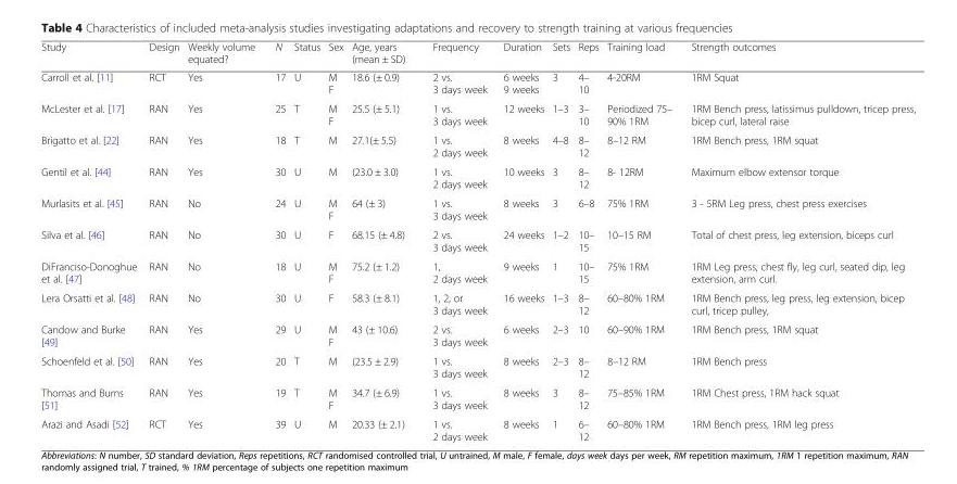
<table><thead><tr><td>Study</td><td>Design</td><td>Weekly volume equated?</td><td>N</td><td>Status</td><td>Sex</td><td>Age, years (mean ± SD)</td><td>Frequency</td><td>Duration</td><td>Sets</td><td>Reps</td><td>Training load</td><td>Strength outcomes</td></tr></thead><tbody><tr><td>Carroll et al. [11]</td><td>RCT</td><td>Yes</td><td>17</td><td>U</td><td>M F</td><td>18.6 (± 0.9)</td><td>2 vs. 3 days week</td><td>6 weeks 9 weeks</td><td>3</td><td>4– 10</td><td>4-20RM</td><td>1RM Squat</td></tr><tr><td>McLester et al. [17]</td><td>RAN</td><td>Yes</td><td>25</td><td>T</td><td>M F</td><td>25.5 (± 5.1)</td><td>1 vs. 3 days week</td><td>12 weeks</td><td>1–3</td><td>3– 10</td><td>Periodized 75– 90% 1RM</td><td>1RM Bench press, latissimus pulldown, tricep press, bicep curl, lateral raise</td></tr><tr><td>Brigatto et al. [22]</td><td>RAN</td><td>Yes</td><td>18</td><td>T</td><td>M</td><td>27.1(± 5.5)</td><td>1 vs. 2 days week</td><td>8 weeks</td><td>4–8</td><td>8– 12</td><td>8–12 RM</td><td>1RM Bench press, 1RM squat</td></tr><tr><td>Gentil et al. [44]</td><td>RAN</td><td>Yes</td><td>30</td><td>U</td><td>M</td><td>(23.0 ± 3.0)</td><td>1 vs. 2 days week</td><td>10 weeks</td><td>3</td><td>8– 12</td><td>8- 12RM</td><td>Maximum elbow extensor torque</td></tr><tr><td>Murlasits et al. [45]</td><td>RAN</td><td>No</td><td>24</td><td>U</td><td>M F</td><td>64 (± 3)</td><td>1 vs. 3 days week</td><td>8 weeks</td><td>3</td><td>6–8</td><td>75% 1RM</td><td>3 - 5RM Leg press, chest press exercises</td></tr><tr><td>Silva et al. [46]</td><td>RAN</td><td>No</td><td>30</td><td>U</td><td>F</td><td>68.15 (± 4.8)</td><td>2 vs. 3 days week</td><td>24 weeks</td><td>1–2</td><td>10– 15</td><td>10–15 RM</td><td>Total of chest press, leg extension, biceps curl</td></tr><tr><td>DiFranciso-Donoghue et al. [47]</td><td>RAN</td><td>No</td><td>18</td><td>U</td><td>M F</td><td>75.2 (± 1.2)</td><td>1, 2 days week</td><td>9 weeks</td><td>1</td><td>10– 15</td><td>75% 1RM</td><td>1RM Leg press, chest fly, leg curl, seated dip, leg extension, arm curl.</td></tr><tr><td>Lera Orsatti et al. [48]</td><td>RAN</td><td>No</td><td>30</td><td>U</td><td>F</td><td>58.3 (± 8.1)</td><td>1, 2, or 3 days week</td><td>16 weeks</td><td>1–3</td><td>8– 12</td><td>60–80% 1RM</td><td>1RM Bench press, leg press, leg extension, bicep curl, tricep pulley,</td></tr><tr><td>Candow and Burke [49]</td><td>RAN</td><td>Yes</td><td>29</td><td>U</td><td>M F</td><td>43 (± 10.6)</td><td>2 vs. 3 days week</td><td>6 weeks</td><td>2–3</td><td>10</td><td>60–90% 1RM</td><td>1RM Bench press, 1RM squat</td></tr><tr><td>Schoenfeld et al. [50]</td><td>RAN</td><td>Yes</td><td>20</td><td>T</td><td>M</td><td>(23.5 ± 2.9)</td><td>1 vs. 3 days week</td><td>8 weeks</td><td>2–3</td><td>8– 12</td><td>8–12 RM</td><td>1RM Bench press</td></tr><tr><td>Thomas and Burns [51]</td><td>RAN</td><td>Yes</td><td>19</td><td>T</td><td>M F</td><td>34.7 (± 6.9)</td><td>1 vs. 3 days week</td><td>8 weeks</td><td>3</td><td>8– 12</td><td>75–85% 1RM</td><td>1RM Chest press, 1RM hack squat</td></tr><tr><td>Arazi and Asadi [52]</td><td>RCT</td><td>Yes</td><td>39</td><td>U</td><td>M</td><td>20.33 (± 2.1)</td><td>1 vs. 2 days week</td><td>8 weeks</td><td>1</td><td>6– 12</td><td>60–80% 1RM</td><td>1RM Bench press, 1RM leg press</td></tr></tbody></table>